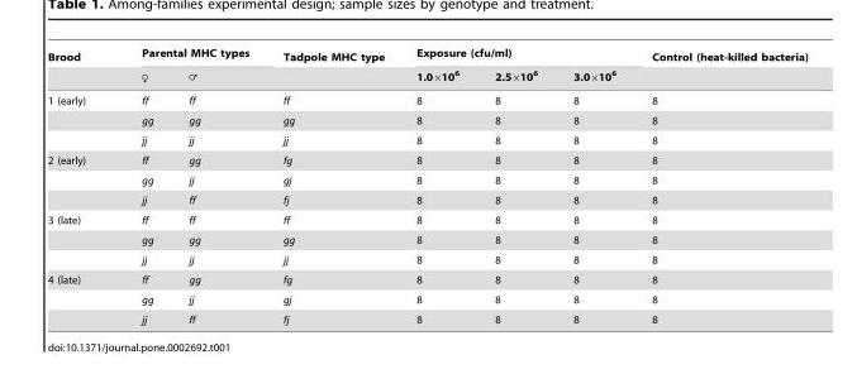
<table><thead><tr><td rowspan="2">Brood</td><td colspan="2">Parental MHC types</td><td rowspan="2">Tadpole MHC type</td><td colspan="3">Exposure (cfu/ml)</td><td rowspan="2">Control (heat-killed bacteria)</td></tr><tr><td>♀</td><td>=</td><td>1.0×10<sup>6</sup></td><td>2.5×10<sup>6</sup></td><td>3.0×10<sup>6</sup></td></tr></thead><tbody><tr><td rowspan="3">1 (early)</td><td>ff</td><td>ff</td><td>ff</td><td>8</td><td>8</td><td>8</td><td>8</td></tr><tr><td>gg</td><td>gg</td><td>gg</td><td>8</td><td>8</td><td>8</td><td>8</td></tr><tr><td>jj</td><td>jj</td><td>jj</td><td>8</td><td>8</td><td>8</td><td>8</td></tr><tr><td rowspan="3">2 (early)</td><td>ff</td><td>gg</td><td>fg</td><td>8</td><td>8</td><td>8</td><td>8</td></tr><tr><td>gg</td><td>jj</td><td>gj</td><td>8</td><td>8</td><td>8</td><td>8</td></tr><tr><td>jj</td><td>ff</td><td>fj</td><td>8</td><td>8</td><td>8</td><td>8</td></tr><tr><td rowspan="3">3 (late)</td><td>ff</td><td>ff</td><td>ff</td><td>8</td><td>8</td><td>8</td><td>8</td></tr><tr><td>gg</td><td>gg</td><td>gg</td><td>8</td><td>8</td><td>8</td><td>8</td></tr><tr><td>jj</td><td>jj</td><td>jj</td><td>8</td><td>8</td><td>8</td><td>8</td></tr><tr><td rowspan="3">4 (late)</td><td>ff</td><td>gg</td><td>fg</td><td>8</td><td>8</td><td>8</td><td>8</td></tr><tr><td>gg</td><td>jj</td><td>gj</td><td>8</td><td>8</td><td>8</td><td>8</td></tr><tr><td>jj</td><td>ff</td><td>fj</td><td>8</td><td>8</td><td>8</td><td>8</td></tr></tbody></table>